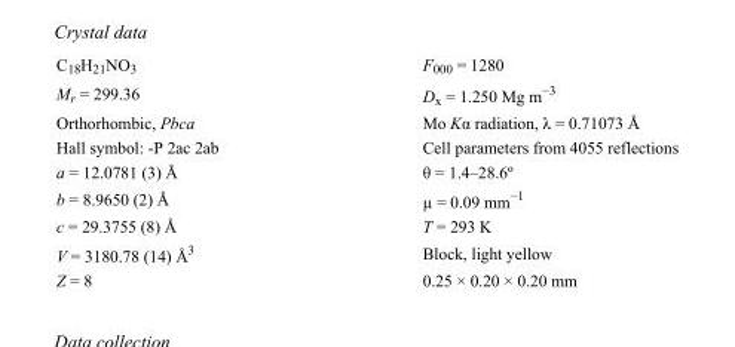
<table><tbody><tr><td>C<sub>18</sub>H<sub>21</sub>NO<sub>3</sub></td><td>F000 = 1280</td></tr><tr><td>M<sub>r</sub> = 299.36</td><td>D<sub>x</sub> = 1.250 Mg m<sup>−3</sup></td></tr><tr><td>Orthorhombic, Pbca</td><td>Mo Kα radiation, λ = 0.71073 Å</td></tr><tr><td>Hall symbol: -P 2ac 2ab</td><td>Cell parameters from 4055 reflections</td></tr><tr><td>a = 12.0781 (3) Å</td><td>θ = 1.4–28.6º</td></tr><tr><td>b = 8.9650 (2) Å</td><td>µ = 0.09 mm<sup>−1</sup></td></tr><tr><td>c = 29.3755 (8) Å</td><td>T = 293 K</td></tr><tr><td>V = 3180.78 (14) Å<sup>3</sup></td><td>Block, light yellow</td></tr><tr><td>Z = 8</td><td>0.25 × 0.20 × 0.20 mm</td></tr></tbody></table>